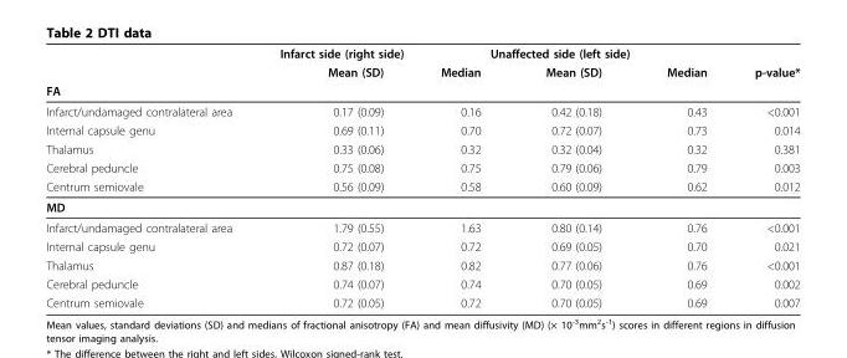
<table><thead><tr><td rowspan="2"></td><td colspan="2">Infarct side (right side)</td><td colspan="2">Unaffected side (left side)</td><td rowspan="2">p-value*</td></tr><tr><td>Mean (SD)</td><td>Median</td><td>Mean (SD)</td><td>Median</td></tr><tr><td colspan="6">FA</td></tr></thead><tbody><tr><td>Infarct/undamaged contralateral area</td><td>0.17 (0.09)</td><td>0.16</td><td>0.42 (0.18)</td><td>0.43</td><td>&lt;0.001</td></tr><tr><td>Internal capsule genu</td><td>0.69 (0.11)</td><td>0.70</td><td>0.72 (0.07)</td><td>0.73</td><td>0.014</td></tr><tr><td>Thalamus</td><td>0.33 (0.06)</td><td>0.32</td><td>0.32 (0.04)</td><td>0.32</td><td>0.381</td></tr><tr><td>Cerebral peduncle</td><td>0.75 (0.08)</td><td>0.75</td><td>0.79 (0.06)</td><td>0.79</td><td>0.003</td></tr><tr><td>Centrum semiovale</td><td>0.56 (0.09)</td><td>0.58</td><td>0.60 (0.09)</td><td>0.62</td><td>0.012</td></tr><tr><td colspan="6">MD</td></tr><tr><td>Infarct/undamaged contralateral area</td><td>1.79 (0.55)</td><td>1.63</td><td>0.80 (0.14)</td><td>0.76</td><td>&lt;0.001</td></tr><tr><td>Internal capsule genu</td><td>0.72 (0.07)</td><td>0.72</td><td>0.69 (0.05)</td><td>0.70</td><td>0.021</td></tr><tr><td>Thalamus</td><td>0.87 (0.18)</td><td>0.82</td><td>0.77 (0.06)</td><td>0.76</td><td>&lt;0.001</td></tr><tr><td>Cerebral peduncle</td><td>0.74 (0.07)</td><td>0.74</td><td>0.70 (0.05)</td><td>0.69</td><td>0.002</td></tr><tr><td>Centrum semiovale</td><td>0.72 (0.05)</td><td>0.72</td><td>0.70 (0.05)</td><td>0.69</td><td>0.007</td></tr></tbody></table>